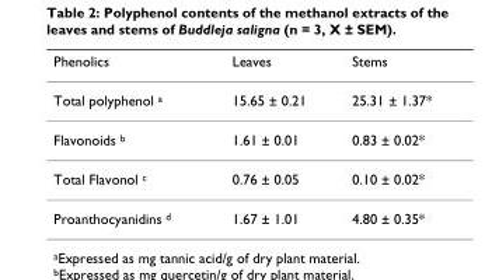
<table><thead><tr><td>Phenolics</td><td>Leaves</td><td>Stems</td></tr></thead><tbody><tr><td>Total polyphenol <sup>a</sup></td><td>15.65 ± 0.21</td><td>25.31 ± 1.37*</td></tr><tr><td>Flavonoids <sup>b</sup></td><td>1.61 ± 0.01</td><td>0.83 ± 0.02*</td></tr><tr><td>Total Flavonol <sup>c</sup></td><td>0.76 ± 0.05</td><td>0.10 ± 0.02*</td></tr><tr><td>Proanthocyanidins <sup>d</sup></td><td>1.67 ± 1.01</td><td>4.80 ± 0.35*</td></tr></tbody></table>